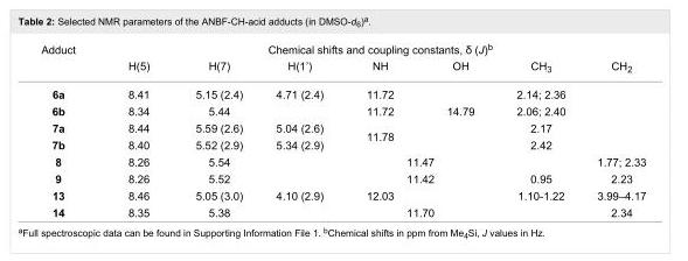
<table><tbody><tr><td rowspan="2">Adduct</td><td colspan="7">Chemical shifts and coupling constants, δ (J)<sup>b</sup></td></tr><tr><td>H(5)</td><td>H(7)</td><td>H(1’)</td><td>NH</td><td>OH</td><td>CH<sub>3</sub></td><td>CH<sub>2</sub></td></tr><tr><td>6a</td><td>8.41</td><td>5.15 (2.4)</td><td>4.71 (2.4)</td><td>11.72</td><td></td><td>2.14; 2.36</td><td></td></tr><tr><td>6b</td><td>8.34</td><td>5.44</td><td></td><td>11.72</td><td>14.79</td><td>2.06; 2.40</td><td></td></tr><tr><td>7a</td><td>8.44</td><td>5.59 (2.6)</td><td>5.04 (2.6)</td><td rowspan="2">11.78</td><td></td><td>2.17</td><td></td></tr><tr><td>7b</td><td>8.40</td><td>5.52 (2.9)</td><td>5.34 (2.9)</td><td></td><td>2.42</td><td></td></tr><tr><td>8</td><td>8.26</td><td>5.54</td><td></td><td colspan="2">11.47</td><td></td><td>1.77; 2.33</td></tr><tr><td>9</td><td>8.26</td><td>5.52</td><td></td><td colspan="2">11.42</td><td>0.95</td><td>2.23</td></tr><tr><td>13</td><td>8.46</td><td>5.05 (3.0)</td><td>4.10 (2.9)</td><td>12.03</td><td></td><td>1.10-1.22</td><td>3.99–4.17</td></tr><tr><td>14</td><td>8.35</td><td>5.38</td><td></td><td colspan="2">11.70</td><td></td><td>2.34</td></tr></tbody></table>